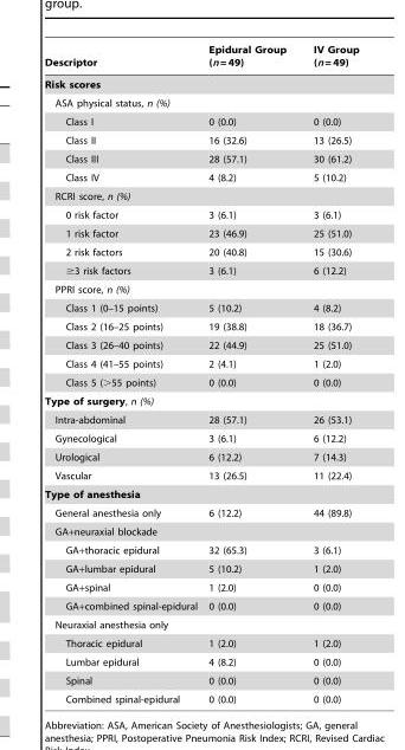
<table><thead><tr><td>Descriptor</td><td>Epidural Group (n = 49)</td><td>IV Group (n = 49)</td></tr></thead><tbody><tr><td colspan="3">Risk scores</td></tr><tr><td colspan="3">ASA physical status, n (%)</td></tr><tr><td>Class I</td><td>0 (0.0)</td><td>0 (0.0)</td></tr><tr><td>Class II</td><td>16 (32.6)</td><td>13 (26.5)</td></tr><tr><td>Class III</td><td>28 (57.1)</td><td>30 (61.2)</td></tr><tr><td>Class IV</td><td>4 (8.2)</td><td>5 (10.2)</td></tr><tr><td colspan="3">RCRI score, n (%)</td></tr><tr><td>0 risk factor</td><td>3 (6.1)</td><td>3 (6.1)</td></tr><tr><td>1 risk factor</td><td>23 (46.9)</td><td>25 (51.0)</td></tr><tr><td>2 risk factors</td><td>20 (40.8)</td><td>15 (30.6)</td></tr><tr><td>≥3 risk factors</td><td>3 (6.1)</td><td>6 (12.2)</td></tr><tr><td colspan="3">PPRI score, n (%)</td></tr><tr><td>Class 1 (0–15 points)</td><td>5 (10.2)</td><td>4 (8.2)</td></tr><tr><td>Class 2 (16–25 points)</td><td>19 (38.8)</td><td>18 (36.7)</td></tr><tr><td>Class 3 (26–40 points)</td><td>22 (44.9)</td><td>25 (51.0)</td></tr><tr><td>Class 4 (41–55 points)</td><td>2 (4.1)</td><td>1 (2.0)</td></tr><tr><td>Class 5 (&gt;55 points)</td><td>0 (0.0)</td><td>0 (0.0)</td></tr><tr><td colspan="3">Type of surgery, n (%)</td></tr><tr><td>Intra-abdominal</td><td>28 (57.1)</td><td>26 (53.1)</td></tr><tr><td>Gynecological</td><td>3 (6.1)</td><td>6 (12.2)</td></tr><tr><td>Urological</td><td>6 (12.2)</td><td>7 (14.3)</td></tr><tr><td>Vascular</td><td>13 (26.5)</td><td>11 (22.4)</td></tr><tr><td colspan="3">Type of anesthesia</td></tr><tr><td>General anesthesia only</td><td>6 (12.2)</td><td>44 (89.8)</td></tr><tr><td colspan="3">GA+neuraxial blockade</td></tr><tr><td>GA+thoracic epidural</td><td>32 (65.3)</td><td>3 (6.1)</td></tr><tr><td>GA+lumbar epidural</td><td>5 (10.2)</td><td>1 (2.0)</td></tr><tr><td>GA+spinal</td><td>1 (2.0)</td><td>0 (0.0)</td></tr><tr><td>GA+combined spinal-epidural</td><td>0 (0.0)</td><td>0 (0.0)</td></tr><tr><td colspan="3">Neuraxial anesthesia only</td></tr><tr><td>Thoracic epidural</td><td>1 (2.0)</td><td>1 (2.0)</td></tr><tr><td>Lumbar epidural</td><td>4 (8.2)</td><td>0 (0.0)</td></tr><tr><td>Spinal</td><td>0 (0.0)</td><td>0 (0.0)</td></tr><tr><td>Combined spinal-epidural</td><td>0 (0.0)</td><td>0 (0.0)</td></tr></tbody></table>